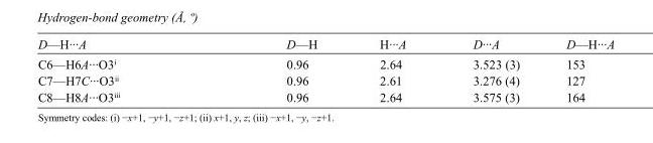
<table><tbody><tr><td>D—H···A</td><td>D—H</td><td>H···A</td><td>D···A</td><td>D—H···A</td></tr><tr><td>C6—H6A···O3<sup>i</sup></td><td>0.96</td><td>2.64</td><td>3.523 (3)</td><td>153</td></tr><tr><td>C7—H7C···O3<sup>ii</sup></td><td>0.96</td><td>2.61</td><td>3.276 (4)</td><td>127</td></tr><tr><td>C8—H8A···O3<sup>iii</sup></td><td>0.96</td><td>2.64</td><td>3.575 (3)</td><td>164</td></tr></tbody></table>